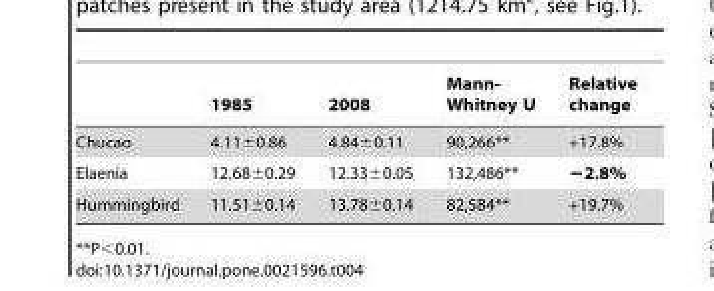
<table><thead><tr><td></td><td>1985</td><td>2008</td><td>Mann- Whitney U</td><td>Relative change</td></tr></thead><tbody><tr><td>Chucao</td><td>4.11±0.86</td><td>4.84±0.11</td><td>90,266**</td><td>+17.8%</td></tr><tr><td>Elaenia</td><td>12.68±0.29</td><td>12.33±0.05</td><td>132,486**</td><td>−2.8%</td></tr><tr><td>Hummingbird</td><td>11.51±0.14</td><td>13.78±0.14</td><td>82,584**</td><td>+19.7%</td></tr></tbody></table>